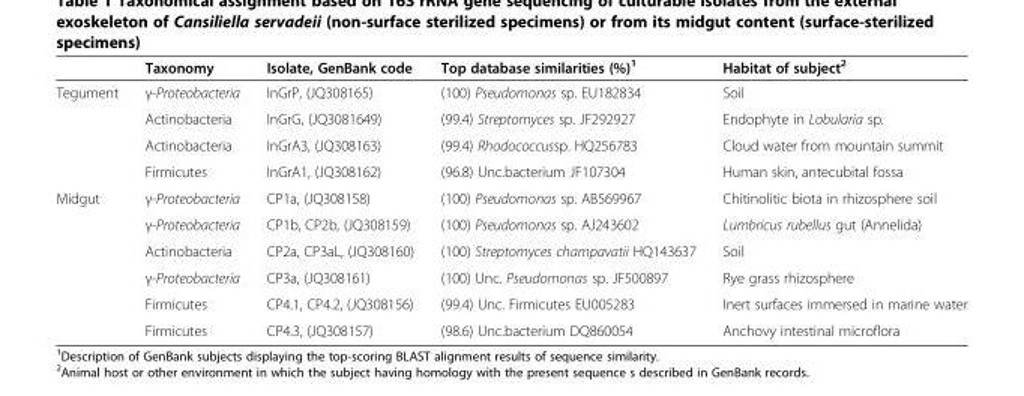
<table><thead><tr><td></td><td>Taxonomy</td><td>Isolate, GenBank code</td><td>Top database similarities (%)<sup>1</sup></td><td>Habitat of subject<sup>2</sup></td></tr></thead><tbody><tr><td rowspan="4">Tegument</td><td>γ-Proteobacteria</td><td>InGrP, (JQ308165)</td><td>(100) Pseudomonas sp. EU182834</td><td>Soil</td></tr><tr><td>Actinobacteria</td><td>InGrG, (JQ3081649)</td><td>(99.4) Streptomyces sp. JF292927</td><td>Endophyte in Lobularia sp.</td></tr><tr><td>Actinobacteria</td><td>InGrA3, (JQ308163)</td><td>(99.4) Rhodococcussp. HQ256783</td><td>Cloud water from mountain summit</td></tr><tr><td>Firmicutes</td><td>InGrA1, (JQ308162)</td><td>(96.8) Unc.bacterium JF107304</td><td>Human skin, antecubital fossa</td></tr><tr><td rowspan="6">Midgut</td><td>γ-Proteobacteria</td><td>CP1a, (JQ308158)</td><td>(100) Pseudomonas sp. AB569967</td><td>Chitinolitic biota in rhizosphere soil</td></tr><tr><td>γ-Proteobacteria</td><td>CP1b, CP2b, (JQ308159)</td><td>(100) Pseudomonas sp. AJ243602</td><td>Lumbricus rubellus gut (Annelida)</td></tr><tr><td>Actinobacteria</td><td>CP2a, CP3aL, (JQ308160)</td><td>(100) Streptomyces champavatii HQ143637</td><td>Soil</td></tr><tr><td>γ-Proteobacteria</td><td>CP3a, (JQ308161)</td><td>(100) Unc. Pseudomonas sp. JF500897</td><td>Rye grass rhizosphere</td></tr><tr><td>Firmicutes</td><td>CP4.1, CP4.2, (JQ308156)</td><td>(99.4) Unc. Firmicutes EU005283</td><td>Inert surfaces immersed in marine water</td></tr><tr><td>Firmicutes</td><td>CP4.3, (JQ308157)</td><td>(98.6) Unc.bacterium DQ860054</td><td>Anchovy intestinal microflora</td></tr></tbody></table>